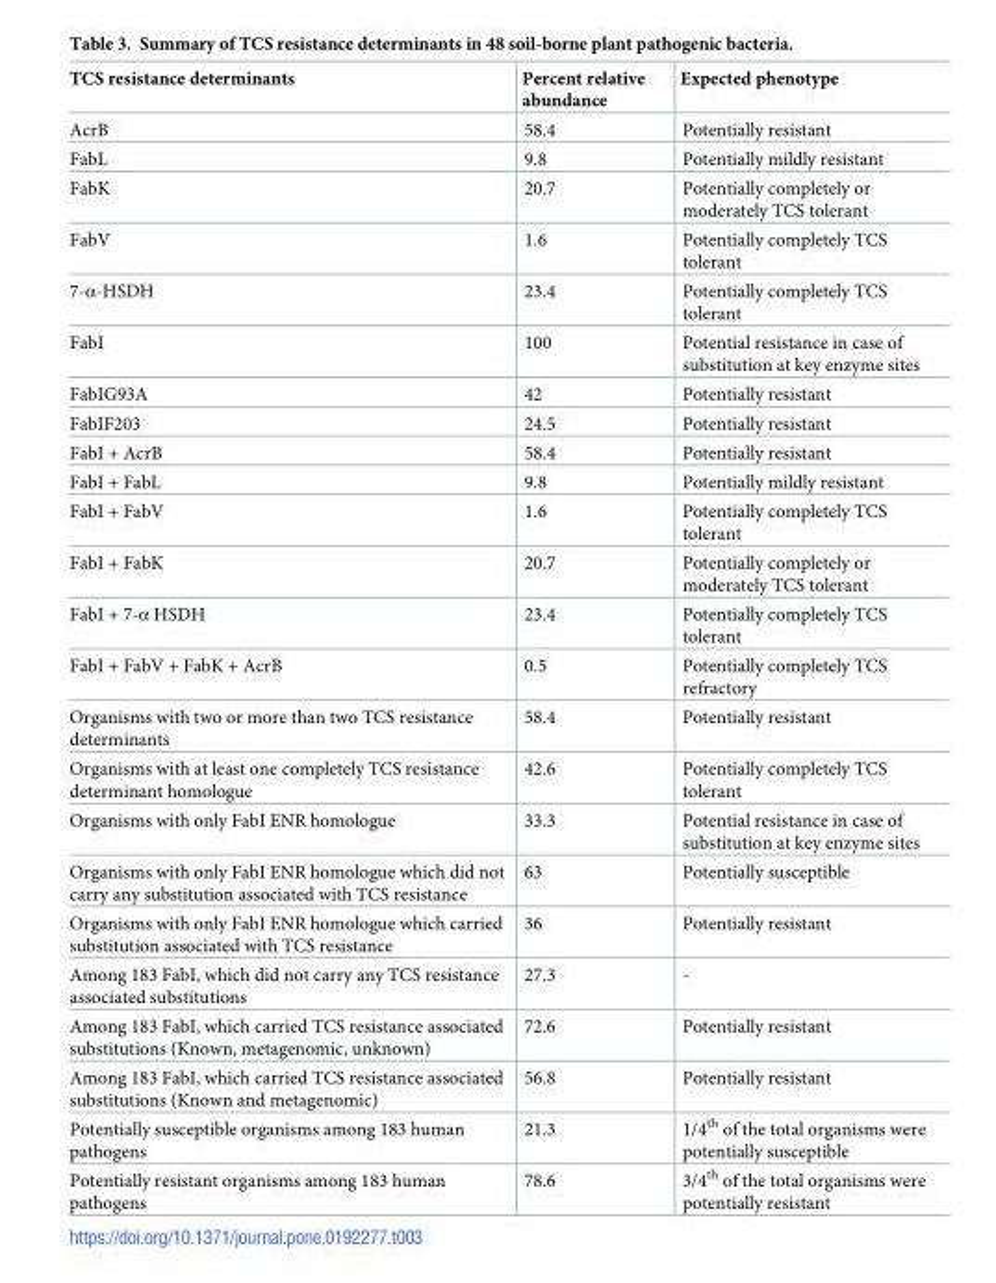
<table><thead><tr><td>TCS resistance determinants</td><td>Percent relative abundance</td><td>Expected phenotype</td></tr></thead><tbody><tr><td>AcrB</td><td>58.4</td><td>Potentially resistant</td></tr><tr><td>FabL</td><td>9.8</td><td>Potentially mildly resistant</td></tr><tr><td>FabK</td><td>20.7</td><td>Potentially completely or moderately TCS tolerant</td></tr><tr><td>FabV</td><td>1.6</td><td>Potentially completely TCS tolerant</td></tr><tr><td>7-α-HSDH</td><td>23.4</td><td>Potentially completely TCS tolerant</td></tr><tr><td>FabI</td><td>100</td><td>Potential resistance in case of substitution at key enzyme sites</td></tr><tr><td>FabIG93A</td><td>42</td><td>Potentially resistant</td></tr><tr><td>FabIF203</td><td>24.5</td><td>Potentially resistant</td></tr><tr><td>FabI + AcrB</td><td>58.4</td><td>Potentially resistant</td></tr><tr><td>FabI + FabL</td><td>9.8</td><td>Potentially mildly resistant</td></tr><tr><td>FabI + FabV</td><td>1.6</td><td>Potentially completely TCS tolerant</td></tr><tr><td>FabI + FabK</td><td>20.7</td><td>Potentially completely or moderately TCS tolerant</td></tr><tr><td>FabI + 7-α HSDH</td><td>23.4</td><td>Potentially completely TCS tolerant</td></tr><tr><td>FabI + FabV + FabK + AcrB</td><td>0.5</td><td>Potentially completely TCS refractory</td></tr><tr><td>Organisms with two or more than two TCS resistance determinants</td><td>58.4</td><td>Potentially resistant</td></tr><tr><td>Organisms with at least one completely TCS resistance determinant homologue</td><td>42.6</td><td>Potentially completely TCS tolerant</td></tr><tr><td>Organisms with only FabI ENR homologue</td><td>33.3</td><td>Potential resistance in case of substitution at key enzyme sites</td></tr><tr><td>Organisms with only FabI ENR homologue which did not carry any substitution associated with TCS resistance</td><td>63</td><td>Potentially susceptible</td></tr><tr><td>Organisms with only FabI ENR homologue which carried substitution associated with TCS resistance</td><td>36</td><td>Potentially resistant</td></tr><tr><td>Among 183 FabI, which did not carry any TCS resistance associated substitutions</td><td>27.3</td><td>-</td></tr><tr><td>Among 183 FabI, which carried TCS resistance associated substitutions (Known, metagenomic, unknown)</td><td>72.6</td><td>Potentially resistant</td></tr><tr><td>Among 183 FabI, which carried TCS resistance associated substitutions (Known and metagenomic)</td><td>56.8</td><td>Potentially resistant</td></tr><tr><td>Potentially susceptible organisms among 183 human pathogens</td><td>21.3</td><td>1/4<sup>th</sup> of the total organisms were potentially susceptible</td></tr><tr><td>Potentially resistant organisms among 183 human pathogens</td><td>78.6</td><td>3/4<sup>th</sup> of the total organisms were potentially resistant</td></tr></tbody></table>